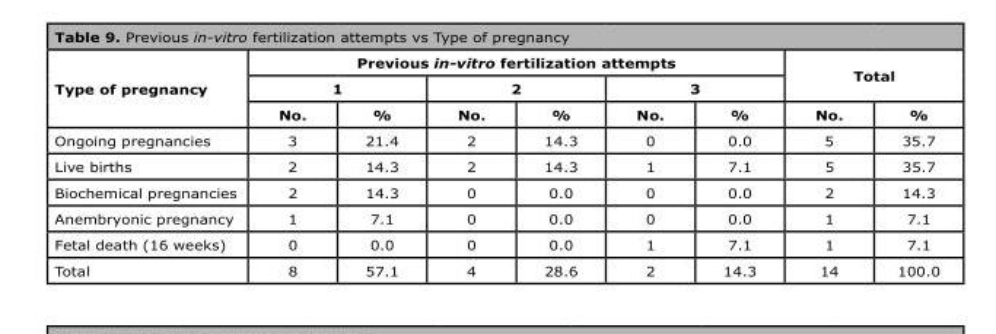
<table><thead><tr><td rowspan="3">Type of pregnancy</td><td colspan="6">Previous in-vitro fertilization attempts</td><td rowspan="2" colspan="2">Total</td></tr><tr><td colspan="2">1</td><td colspan="2">2</td><td colspan="2">3</td></tr><tr><td>No.</td><td>%</td><td>No.</td><td>%</td><td>No.</td><td>%</td><td>No.</td><td>%</td></tr></thead><tbody><tr><td>Ongoing pregnancies</td><td>3</td><td>21.4</td><td>2</td><td>14.3</td><td>0</td><td>0.0</td><td>5</td><td>35.7</td></tr><tr><td>Live births</td><td>2</td><td>14.3</td><td>2</td><td>14.3</td><td>1</td><td>7.1</td><td>5</td><td>35.7</td></tr><tr><td>Biochemical pregnancies</td><td>2</td><td>14.3</td><td>0</td><td>0.0</td><td>0</td><td>0.0</td><td>2</td><td>14.3</td></tr><tr><td>Anembryonic pregnancy</td><td>1</td><td>7.1</td><td>0</td><td>0.0</td><td>0</td><td>0.0</td><td>1</td><td>7.1</td></tr><tr><td>Fetal death (16 weeks)</td><td>0</td><td>0.0</td><td>0</td><td>0.0</td><td>1</td><td>7.1</td><td>1</td><td>7.1</td></tr><tr><td>Total</td><td>8</td><td>57.1</td><td>4</td><td>28.6</td><td>2</td><td>14.3</td><td>14</td><td>100.0</td></tr></tbody></table>